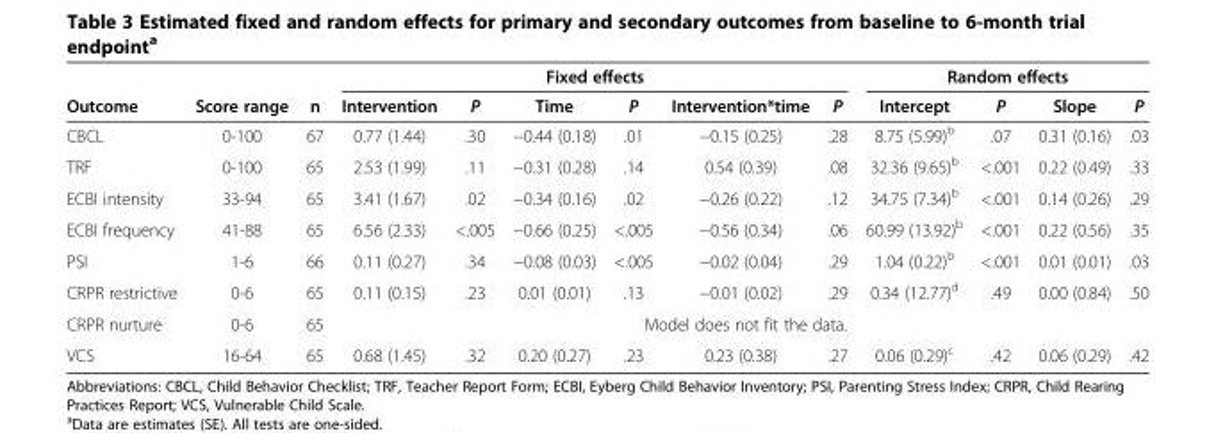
<table><thead><tr><td rowspan="2">Outcome</td><td rowspan="2">Score range</td><td rowspan="2">n</td><td colspan="6">Fixed effects</td><td colspan="4">Random effects</td></tr><tr><td>Intervention</td><td>P</td><td>Time</td><td>P</td><td>Intervention*time</td><td>P</td><td>Intercept</td><td>P</td><td>Slope</td><td>P</td></tr></thead><tbody><tr><td>CBCL</td><td>0-100</td><td>67</td><td>0.77 (1.44)</td><td>.30</td><td>−0.44 (0.18)</td><td>.01</td><td>−0.15 (0.25)</td><td>.28</td><td>8.75 (5.99)<sup>b</sup></td><td>.07</td><td>0.31 (0.16)</td><td>.03</td></tr><tr><td>TRF</td><td>0-100</td><td>65</td><td>2.53 (1.99)</td><td>.11</td><td>−0.31 (0.28)</td><td>.14</td><td>0.54 (0.39)</td><td>.08</td><td>32.36 (9.65)<sup>b</sup></td><td>&lt;.001</td><td>0.22 (0.49)</td><td>.33</td></tr><tr><td>ECBI intensity</td><td>33-94</td><td>65</td><td>3.41 (1.67)</td><td>.02</td><td>−0.34 (0.16)</td><td>.02</td><td>−0.26 (0.22)</td><td>.12</td><td>34.75 (7.34)<sup>b</sup></td><td>&lt;.001</td><td>0.14 (0.26)</td><td>.29</td></tr><tr><td>ECBI frequency</td><td>41-88</td><td>65</td><td>6.56 (2.33)</td><td>&lt;.005</td><td>−0.66 (0.25)</td><td>&lt;.005</td><td>−0.56 (0.34)</td><td>.06</td><td>60.99 (13.92)<sup>b</sup></td><td>&lt;.001</td><td>0.22 (0.56)</td><td>.35</td></tr><tr><td>PSI</td><td>1-6</td><td>66</td><td>0.11 (0.27)</td><td>.34</td><td>−0.08 (0.03)</td><td>&lt;.005</td><td>−0.02 (0.04)</td><td>.29</td><td>1.04 (0.22)<sup>b</sup></td><td>&lt;.001</td><td>0.01 (0.01)</td><td>.03</td></tr><tr><td>CRPR restrictive</td><td>0-6</td><td>65</td><td>0.11 (0.15)</td><td>.23</td><td>0.01 (0.01)</td><td>.13</td><td>−0.01 (0.02)</td><td>.29</td><td>0.34 (12.77)<sup>d</sup></td><td>.49</td><td>0.00 (0.84)</td><td>.50</td></tr><tr><td>CRPR nurture</td><td>0-6</td><td>65</td><td colspan="10">Model does not fit the data.</td></tr><tr><td>VCS</td><td>16-64</td><td>65</td><td>0.68 (1.45)</td><td>.32</td><td>0.20 (0.27)</td><td>.23</td><td>0.23 (0.38)</td><td>.27</td><td>0.06 (0.29)<sup>c</sup></td><td>.42</td><td>0.06 (0.29)</td><td>.42</td></tr></tbody></table>